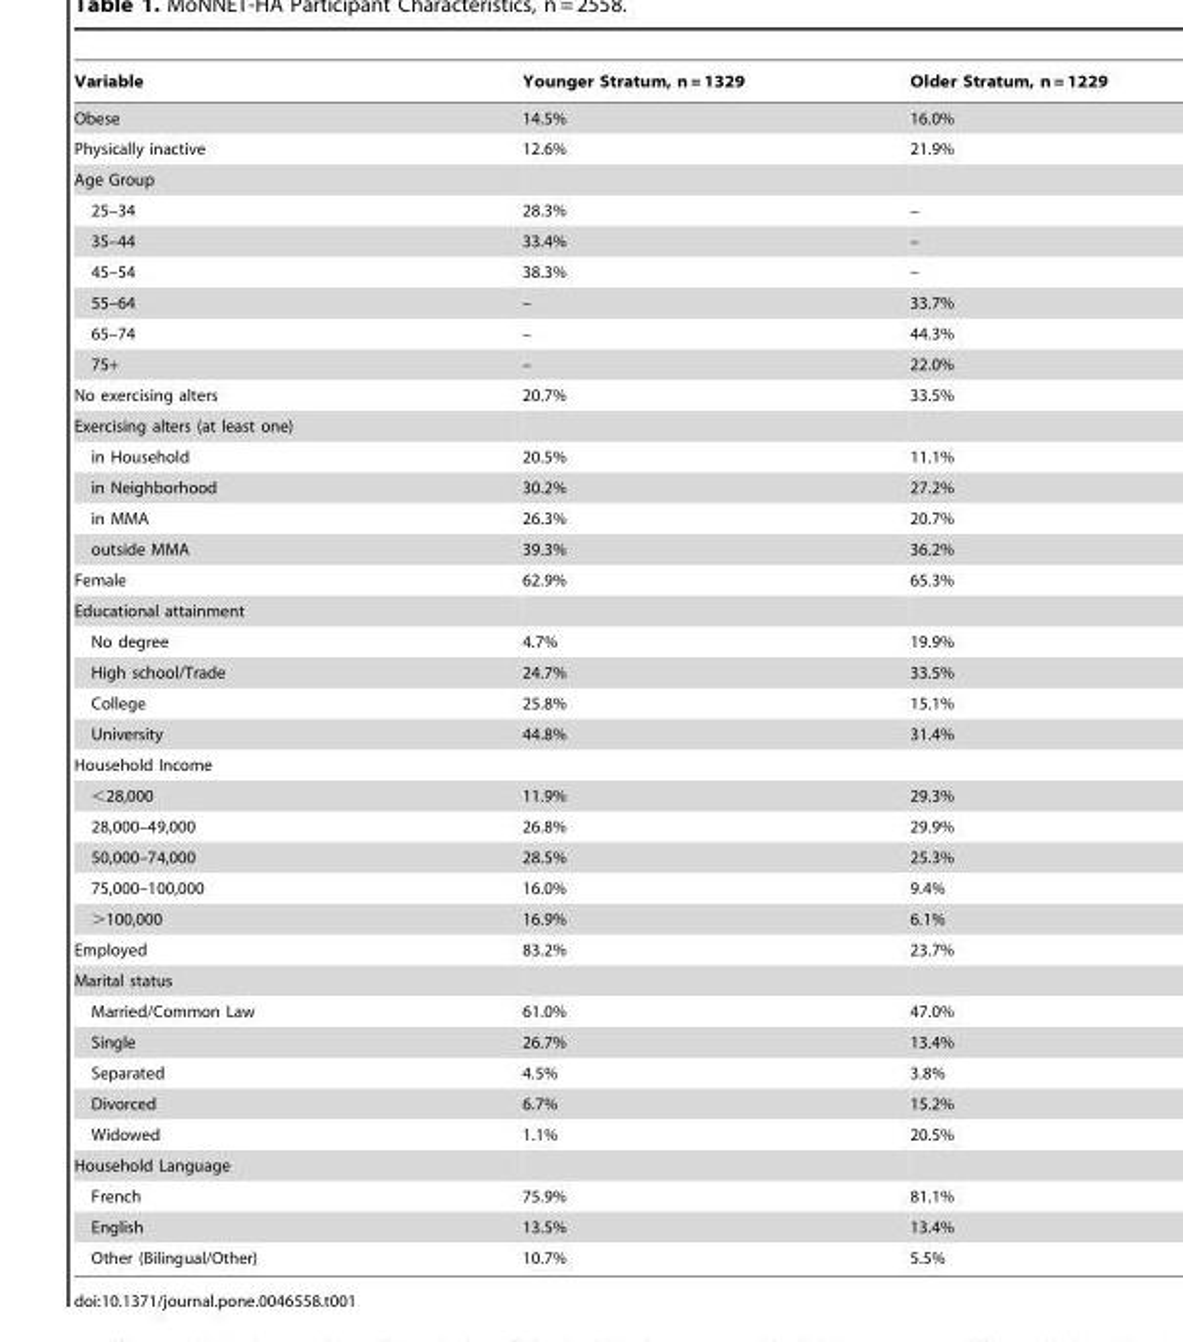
<table><thead><tr><td>Variable</td><td>Younger Stratum, n = 1329</td><td>Older Stratum, n = 1229</td></tr></thead><tbody><tr><td>Obese</td><td>14.5%</td><td>16.0%</td></tr><tr><td>Physically inactive</td><td>12.6%</td><td>21.9%</td></tr><tr><td colspan="3">Age Group</td></tr><tr><td>25–34</td><td>28.3%</td><td>–</td></tr><tr><td>35–44</td><td>33.4%</td><td>–</td></tr><tr><td>45–54</td><td>38.3%</td><td>–</td></tr><tr><td>55–64</td><td>–</td><td>33.7%</td></tr><tr><td>65–74</td><td>–</td><td>44.3%</td></tr><tr><td>75+</td><td>–</td><td>22.0%</td></tr><tr><td>No exercising alters</td><td>20.7%</td><td>33.5%</td></tr><tr><td colspan="3">Exercising alters (at least one)</td></tr><tr><td>in Household</td><td>20.5%</td><td>11.1%</td></tr><tr><td>in Neighborhood</td><td>30.2%</td><td>27.2%</td></tr><tr><td>in MMA</td><td>26.3%</td><td>20.7%</td></tr><tr><td>outside MMA</td><td>39.3%</td><td>36.2%</td></tr><tr><td>Female</td><td>62.9%</td><td>65.3%</td></tr><tr><td colspan="3">Educational attainment</td></tr><tr><td>No degree</td><td>4.7%</td><td>19.9%</td></tr><tr><td>High school/Trade</td><td>24.7%</td><td>33.5%</td></tr><tr><td>College</td><td>25.8%</td><td>15.1%</td></tr><tr><td>University</td><td>44.8%</td><td>31.4%</td></tr><tr><td colspan="3">Household Income</td></tr><tr><td>&lt;28,000</td><td>11.9%</td><td>29.3%</td></tr><tr><td>28,000–49,000</td><td>26.8%</td><td>29.9%</td></tr><tr><td>50,000–74,000</td><td>28.5%</td><td>25.3%</td></tr><tr><td>75,000–100,000</td><td>16.0%</td><td>9.4%</td></tr><tr><td>&gt;100,000</td><td>16.9%</td><td>6.1%</td></tr><tr><td>Employed</td><td>83.2%</td><td>23.7%</td></tr><tr><td colspan="3">Marital status</td></tr><tr><td>Married/Common Law</td><td>61.0%</td><td>47.0%</td></tr><tr><td>Single</td><td>26.7%</td><td>13.4%</td></tr><tr><td>Separated</td><td>4.5%</td><td>3.8%</td></tr><tr><td>Divorced</td><td>6.7%</td><td>15.2%</td></tr><tr><td>Widowed</td><td>1.1%</td><td>20.5%</td></tr><tr><td colspan="3">Household Language</td></tr><tr><td>French</td><td>75.9%</td><td>81.1%</td></tr><tr><td>English</td><td>13.5%</td><td>13.4%</td></tr><tr><td>Other (Bilingual/Other)</td><td>10.7%</td><td>5.5%</td></tr></tbody></table>